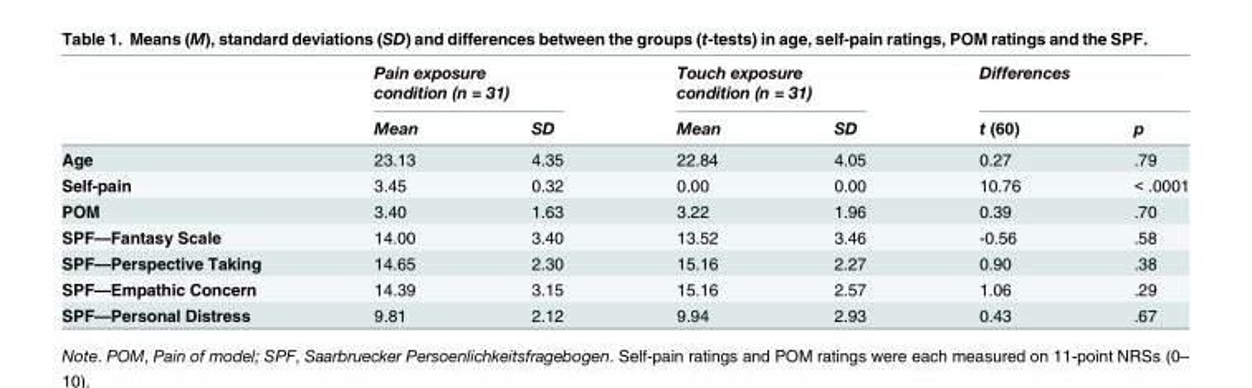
<table><thead><tr><td rowspan="2"></td><td colspan="2">Pain exposure condition (n = 31)</td><td colspan="2">Touch exposure condition (n = 31)</td><td colspan="2">Differences</td></tr><tr><td>Mean</td><td>SD</td><td>Mean</td><td>SD</td><td>t (60)</td><td>p</td></tr></thead><tbody><tr><td>Age</td><td>23.13</td><td>4.35</td><td>22.84</td><td>4.05</td><td>0.27</td><td>.79</td></tr><tr><td>Self-pain</td><td>3.45</td><td>0.32</td><td>0.00</td><td>0.00</td><td>10.76</td><td>&lt; .0001</td></tr><tr><td>POM</td><td>3.40</td><td>1.63</td><td>3.22</td><td>1.96</td><td>0.39</td><td>.70</td></tr><tr><td>SPF—Fantasy Scale</td><td>14.00</td><td>3.40</td><td>13.52</td><td>3.46</td><td>-0.56</td><td>.58</td></tr><tr><td>SPF—Perspective Taking</td><td>14.65</td><td>2.30</td><td>15.16</td><td>2.27</td><td>0.90</td><td>.38</td></tr><tr><td>SPF—Empathic Concern</td><td>14.39</td><td>3.15</td><td>15.16</td><td>2.57</td><td>1.06</td><td>.29</td></tr><tr><td>SPF—Personal Distress</td><td>9.81</td><td>2.12</td><td>9.94</td><td>2.93</td><td>0.43</td><td>.67</td></tr></tbody></table>